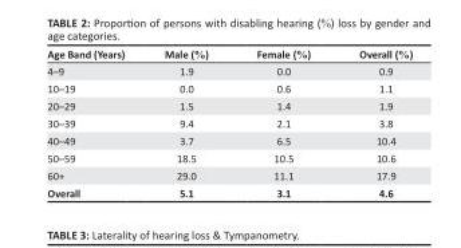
<table><thead><tr><td>Age Band (Years)</td><td>Male (%)</td><td>Female (%)</td><td>Overall (%)</td></tr></thead><tbody><tr><td>4–9</td><td>1.9</td><td>0.0</td><td>0.9</td></tr><tr><td>10–19</td><td>0.0</td><td>0.6</td><td>1.1</td></tr><tr><td>20–29</td><td>1.5</td><td>1.4</td><td>1.9</td></tr><tr><td>30–39</td><td>9.4</td><td>2.1</td><td>3.8</td></tr><tr><td>40–49</td><td>3.7</td><td>6.5</td><td>10.4</td></tr><tr><td>50–59</td><td>18.5</td><td>10.5</td><td>10.6</td></tr><tr><td>60+</td><td>29.0</td><td>11.1</td><td>17.9</td></tr><tr><td>Overall</td><td>5.1</td><td>3.1</td><td>4.6</td></tr></tbody></table>